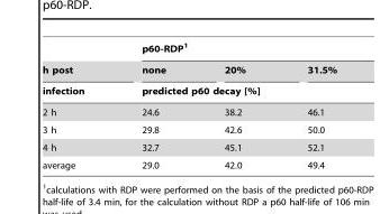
<table><thead><tr><td rowspan="3">h post infection</td><td colspan="3">p60-RDP<sup>1</sup></td></tr><tr><td>none</td><td>20%</td><td>31.5%</td></tr><tr><td colspan="3">predicted p60 decay [%]</td></tr></thead><tbody><tr><td>2 h</td><td>24.6</td><td>38.2</td><td>46.1</td></tr><tr><td>3 h</td><td>29.8</td><td>42.6</td><td>50.0</td></tr><tr><td>4 h</td><td>32.7</td><td>45.1</td><td>52.1</td></tr><tr><td>average</td><td>29.0</td><td>42.0</td><td>49.4</td></tr></tbody></table>